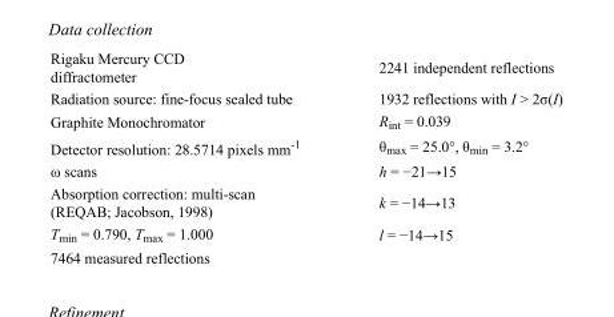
<table><tbody><tr><td>Rigaku Mercury CCD diffractometer</td><td>2241 independent reflections</td></tr><tr><td>Radiation source: fine-focus sealed tube</td><td>1932 reflections with I &gt; 2σ(I)</td></tr><tr><td>Graphite Monochromator</td><td>R<sub>int</sub> = 0.039</td></tr><tr><td>Detector resolution: 28.5714 pixels mm<sup>-1</sup></td><td>θ<sub>max</sub> = 25.0°, θ<sub>min</sub> = 3.2°</td></tr><tr><td>ω scans</td><td>h = −21→15</td></tr><tr><td>Absorption correction: multi-scan (REQAB; Jacobson, 1998)</td><td>k = −14→13</td></tr><tr><td>T<sub>min</sub> = 0.790, T<sub>max</sub> = 1.000</td><td>l = −14→15</td></tr><tr><td>7464 measured reflections</td><td></td></tr></tbody></table>